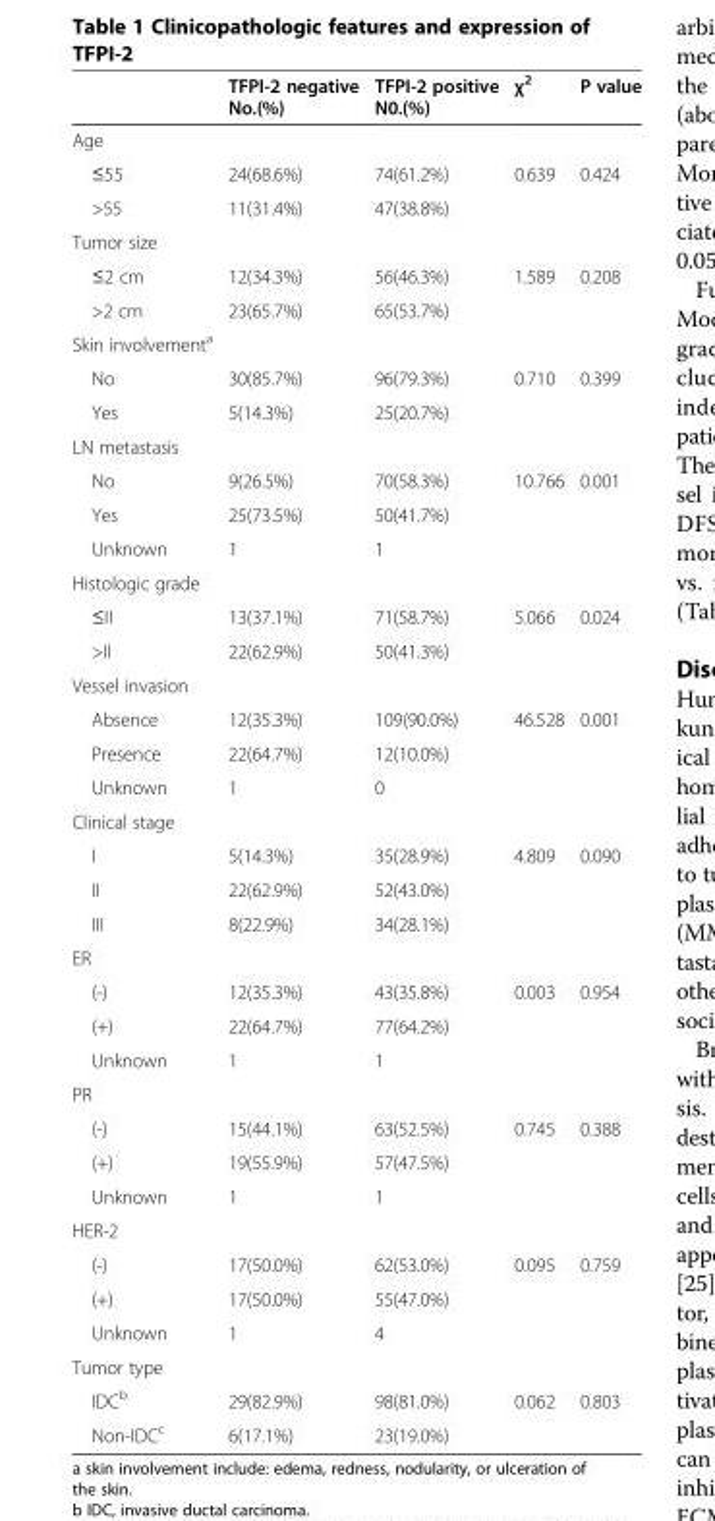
<table><thead><tr><td></td><td>TFPI-2 negative No.(%)</td><td>TFPI-2 positive N0.(%)</td><td>χ<sup>2</sup></td><td>P value</td></tr></thead><tbody><tr><td colspan="5">Age</td></tr><tr><td>≤55</td><td>24(68.6%)</td><td>74(61.2%)</td><td>0.639</td><td>0.424</td></tr><tr><td>&gt;55</td><td>11(31.4%)</td><td>47(38.8%)</td><td></td><td></td></tr><tr><td colspan="5">Tumor size</td></tr><tr><td>≤2 cm</td><td>12(34.3%)</td><td>56(46.3%)</td><td>1.589</td><td>0.208</td></tr><tr><td>&gt;2 cm</td><td>23(65.7%)</td><td>65(53.7%)</td><td></td><td></td></tr><tr><td colspan="5">Skin involvement<sup>a</sup></td></tr><tr><td>No</td><td>30(85.7%)</td><td>96(79.3%)</td><td>0.710</td><td>0.399</td></tr><tr><td>Yes</td><td>5(14.3%)</td><td>25(20.7%)</td><td></td><td></td></tr><tr><td colspan="5">LN metastasis</td></tr><tr><td>No</td><td>9(26.5%)</td><td>70(58.3%)</td><td>10.766</td><td>0.001</td></tr><tr><td>Yes</td><td>25(73.5%)</td><td>50(41.7%)</td><td></td><td></td></tr><tr><td>Unknown</td><td>1</td><td>1</td><td></td><td></td></tr><tr><td colspan="5">Histologic grade</td></tr><tr><td>≤II</td><td>13(37.1%)</td><td>71(58.7%)</td><td>5.066</td><td>0.024</td></tr><tr><td>&gt;II</td><td>22(62.9%)</td><td>50(41.3%)</td><td></td><td></td></tr><tr><td colspan="5">Vessel invasion</td></tr><tr><td>Absence</td><td>12(35.3%)</td><td>109(90.0%)</td><td>46.528</td><td>0.001</td></tr><tr><td>Presence</td><td>22(64.7%)</td><td>12(10.0%)</td><td></td><td></td></tr><tr><td>Unknown</td><td>1</td><td>0</td><td></td><td></td></tr><tr><td colspan="5">Clinical stage</td></tr><tr><td>I</td><td>5(14.3%)</td><td>35(28.9%)</td><td>4.809</td><td>0.090</td></tr><tr><td>II</td><td>22(62.9%)</td><td>52(43.0%)</td><td></td><td></td></tr><tr><td>III</td><td>8(22.9%)</td><td>34(28.1%)</td><td></td><td></td></tr><tr><td colspan="5">ER</td></tr><tr><td>(-)</td><td>12(35.3%)</td><td>43(35.8%)</td><td>0.003</td><td>0.954</td></tr><tr><td>(+)</td><td>22(64.7%)</td><td>77(64.2%)</td><td></td><td></td></tr><tr><td>Unknown</td><td>1</td><td>1</td><td></td><td></td></tr><tr><td colspan="5">PR</td></tr><tr><td>(-)</td><td>15(44.1%)</td><td>63(52.5%)</td><td>0.745</td><td>0.388</td></tr><tr><td>(+)</td><td>19(55.9%)</td><td>57(47.5%)</td><td></td><td></td></tr><tr><td>Unknown</td><td>1</td><td>1</td><td></td><td></td></tr><tr><td colspan="5">HER-2</td></tr><tr><td>(-)</td><td>17(50.0%)</td><td>62(53.0%)</td><td>0.095</td><td>0.759</td></tr><tr><td>(+)</td><td>17(50.0%)</td><td>55(47.0%)</td><td></td><td></td></tr><tr><td>Unknown</td><td>1</td><td>4</td><td></td><td></td></tr><tr><td colspan="5">Tumor type</td></tr><tr><td>IDC<sup>b</sup></td><td>29(82.9%)</td><td>98(81.0%)</td><td>0.062</td><td>0.803</td></tr><tr><td>Non-IDC<sup>c</sup></td><td>6(17.1%)</td><td>23(19.0%)</td><td></td><td></td></tr></tbody></table>